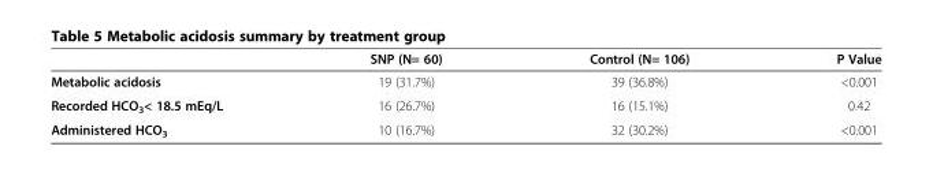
<table><thead><tr><td></td><td>SNP (N= 60)</td><td>Control (N= 106)</td><td>P Value</td></tr></thead><tbody><tr><td>Metabolic acidosis</td><td>19 (31.7%)</td><td>39 (36.8%)</td><td>&lt;0.001</td></tr><tr><td>Recorded HCO<sub>3</sub>&lt; 18.5 mEq/L</td><td>16 (26.7%)</td><td>16 (15.1%)</td><td>0.42</td></tr><tr><td>Administered HCO<sub>3</sub></td><td>10 (16.7%)</td><td>32 (30.2%)</td><td>&lt;0.001</td></tr></tbody></table>